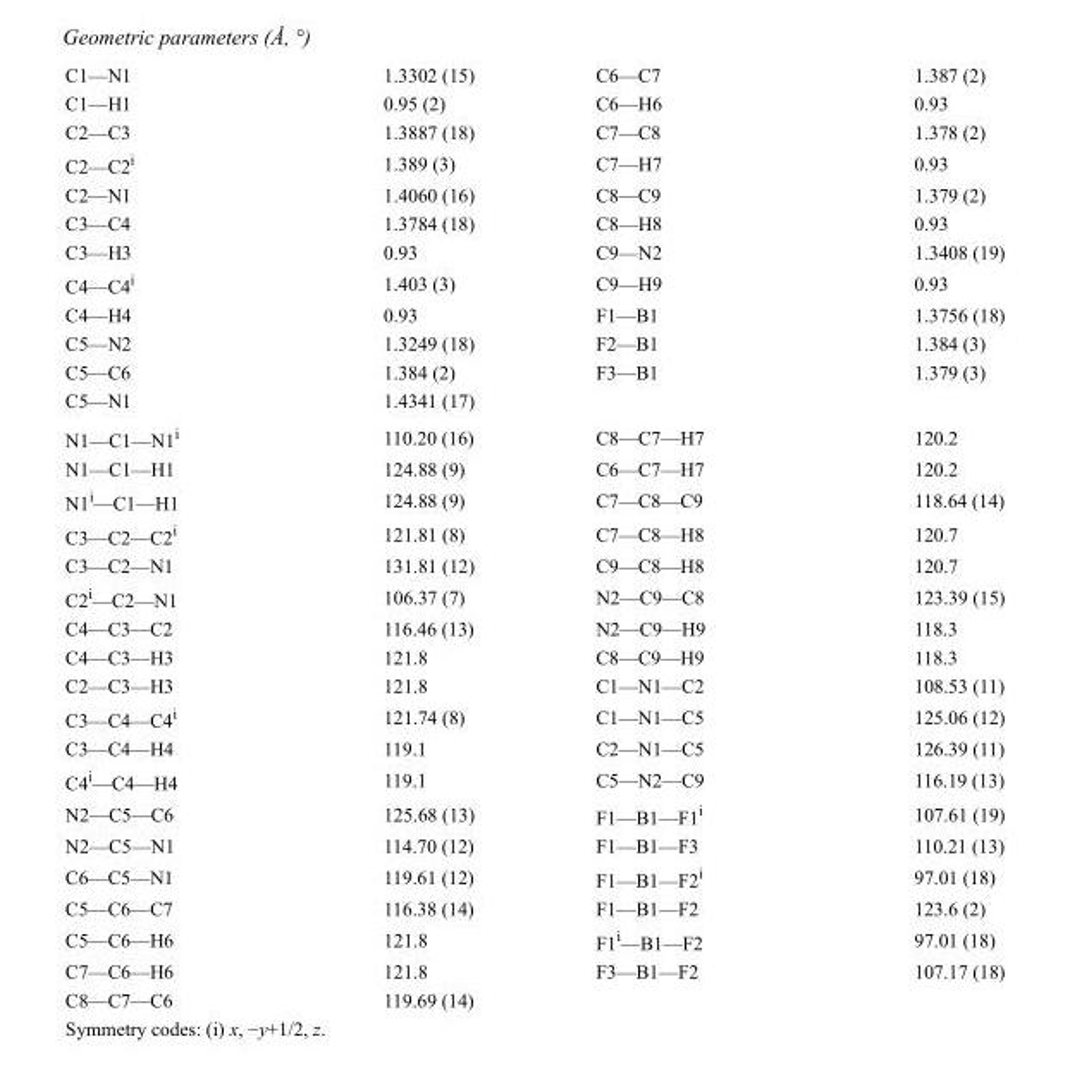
<table><tbody><tr><td>C1—N1</td><td>1.3302 (15)</td><td>C6—C7</td><td>1.387 (2)</td></tr><tr><td>C1—H1</td><td>0.95 (2)</td><td>C6—H6</td><td>0.93</td></tr><tr><td>C2—C3</td><td>1.3887 (18)</td><td>C7—C8</td><td>1.378 (2)</td></tr><tr><td>C2—C2<sup>i</sup></td><td>1.389 (3)</td><td>C7—H7</td><td>0.93</td></tr><tr><td>C2—N1</td><td>1.4060 (16)</td><td>C8—C9</td><td>1.379 (2)</td></tr><tr><td>C3—C4</td><td>1.3784 (18)</td><td>C8—H8</td><td>0.93</td></tr><tr><td>C3—H3</td><td>0.93</td><td>C9—N2</td><td>1.3408 (19)</td></tr><tr><td>C4—C4<sup>i</sup></td><td>1.403 (3)</td><td>C9—H9</td><td>0.93</td></tr><tr><td>C4—H4</td><td>0.93</td><td>F1—B1</td><td>1.3756 (18)</td></tr><tr><td>C5—N2</td><td>1.3249 (18)</td><td>F2—B1</td><td>1.384 (3)</td></tr><tr><td>C5—C6</td><td>1.384 (2)</td><td>F3—B1</td><td>1.379 (3)</td></tr><tr><td>C5—N1</td><td>1.4341 (17)</td><td></td><td></td></tr><tr><td>N1—C1—N1<sup>i</sup></td><td>110.20 (16)</td><td>C8—C7—H7</td><td>120.2</td></tr><tr><td>N1—C1—H1</td><td>124.88 (9)</td><td>C6—C7—H7</td><td>120.2</td></tr><tr><td>N1<sup>i</sup>—C1—H1</td><td>124.88 (9)</td><td>C7—C8—C9</td><td>118.64 (14)</td></tr><tr><td>C3—C2—C2<sup>i</sup></td><td>121.81 (8)</td><td>C7—C8—H8</td><td>120.7</td></tr><tr><td>C3—C2—N1</td><td>131.81 (12)</td><td>C9—C8—H8</td><td>120.7</td></tr><tr><td>C2<sup>i</sup>—C2—N1</td><td>106.37 (7)</td><td>N2—C9—C8</td><td>123.39 (15)</td></tr><tr><td>C4—C3—C2</td><td>116.46 (13)</td><td>N2—C9—H9</td><td>118.3</td></tr><tr><td>C4—C3—H3</td><td>121.8</td><td>C8—C9—H9</td><td>118.3</td></tr><tr><td>C2—C3—H3</td><td>121.8</td><td>C1—N1—C2</td><td>108.53 (11)</td></tr><tr><td>C3—C4—C4<sup>i</sup></td><td>121.74 (8)</td><td>C1—N1—C5</td><td>125.06 (12)</td></tr><tr><td>C3—C4—H4</td><td>119.1</td><td>C2—N1—C5</td><td>126.39 (11)</td></tr><tr><td>C4<sup>i</sup>—C4—H4</td><td>119.1</td><td>C5—N2—C9</td><td>116.19 (13)</td></tr><tr><td>N2—C5—C6</td><td>125.68 (13)</td><td>F1—B1—F1<sup>i</sup></td><td>107.61 (19)</td></tr><tr><td>N2—C5—N1</td><td>114.70 (12)</td><td>F1—B1—F3</td><td>110.21 (13)</td></tr><tr><td>C6—C5—N1</td><td>119.61 (12)</td><td>F1—B1—F2<sup>i</sup></td><td>97.01 (18)</td></tr><tr><td>C5—C6—C7</td><td>116.38 (14)</td><td>F1—B1—F2</td><td>123.6 (2)</td></tr><tr><td>C5—C6—H6</td><td>121.8</td><td>F1<sup>i</sup>—B1—F2</td><td>97.01 (18)</td></tr><tr><td>C7—C6—H6</td><td>121.8</td><td>F3—B1—F2</td><td>107.17 (18)</td></tr><tr><td>C8—C7—C6</td><td>119.69 (14)</td><td></td><td></td></tr></tbody></table>